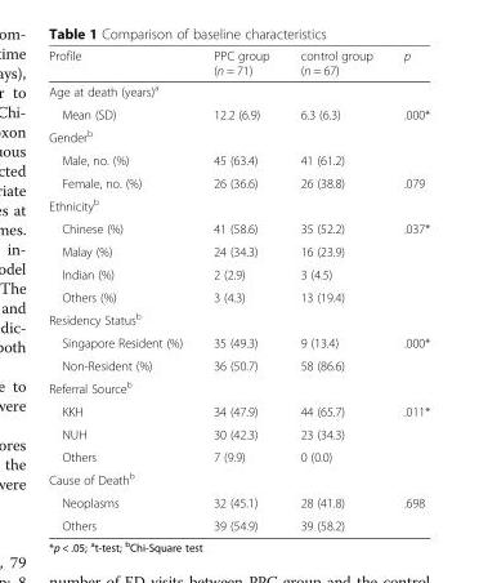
<table><thead><tr><td>Profile</td><td>PPC group (n = 71)</td><td>control group (n = 67)</td><td>p</td></tr></thead><tbody><tr><td colspan="4">Age at death (years)<sup>a</sup></td></tr><tr><td>Mean (SD)</td><td>12.2 (6.9)</td><td>6.3 (6.3)</td><td>.000*</td></tr><tr><td colspan="4">Gender<sup>b</sup></td></tr><tr><td>Male, no. (%)</td><td>45 (63.4)</td><td>41 (61.2)</td><td></td></tr><tr><td>Female, no. (%)</td><td>26 (36.6)</td><td>26 (38.8)</td><td>.079</td></tr><tr><td colspan="4">Ethnicity<sup>b</sup></td></tr><tr><td>Chinese (%)</td><td>41 (58.6)</td><td>35 (52.2)</td><td>.037*</td></tr><tr><td>Malay (%)</td><td>24 (34.3)</td><td>16 (23.9)</td><td></td></tr><tr><td>Indian (%)</td><td>2 (2.9)</td><td>3 (4.5)</td><td></td></tr><tr><td>Others (%)</td><td>3 (4.3)</td><td>13 (19.4)</td><td></td></tr><tr><td colspan="4">Residency Status<sup>b</sup></td></tr><tr><td>Singapore Resident (%)</td><td>35 (49.3)</td><td>9 (13.4)</td><td>.000*</td></tr><tr><td>Non-Resident (%)</td><td>36 (50.7)</td><td>58 (86.6)</td><td></td></tr><tr><td colspan="4">Referral Source<sup>b</sup></td></tr><tr><td>KKH</td><td>34 (47.9)</td><td>44 (65.7)</td><td>.011*</td></tr><tr><td>NUH</td><td>30 (42.3)</td><td>23 (34.3)</td><td></td></tr><tr><td>Others</td><td>7 (9.9)</td><td>0 (0.0)</td><td></td></tr><tr><td colspan="4">Cause of Death<sup>b</sup></td></tr><tr><td>Neoplasms</td><td>32 (45.1)</td><td>28 (41.8)</td><td>.698</td></tr><tr><td>Others</td><td>39 (54.9)</td><td>39 (58.2)</td><td></td></tr></tbody></table>